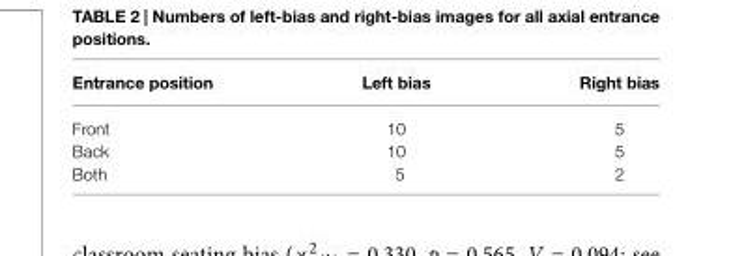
<table><thead><tr><td>Entrance position</td><td>Left bias</td><td>Right bias</td></tr></thead><tbody><tr><td>Front</td><td>10</td><td>5</td></tr><tr><td>Back</td><td>10</td><td>5</td></tr><tr><td>Both</td><td>5</td><td>2</td></tr></tbody></table>